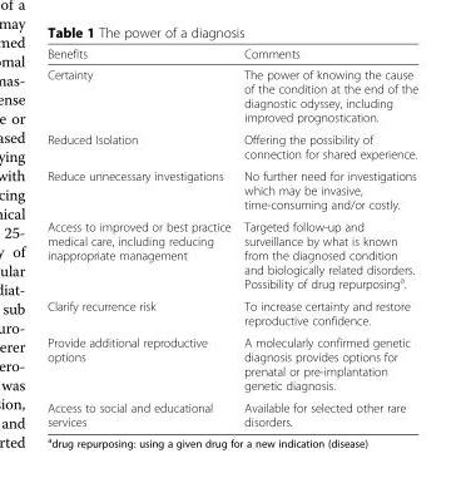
<table><thead><tr><td>Benefits</td><td>Comments</td></tr></thead><tbody><tr><td>Certainty</td><td>The power of knowing the cause of the condition at the end of the diagnostic odyssey, including improved prognostication.</td></tr><tr><td>Reduced Isolation</td><td>Offering the possibility of connection for shared experience.</td></tr><tr><td>Reduce unnecessary investigations</td><td>No further need for investigations which may be invasive, time-consuming and/or costly.</td></tr><tr><td>Access to improved or best practice medical care, including reducing inappropriate management</td><td>Targeted follow-up and surveillance by what is known from the diagnosed condition and biologically related disorders. Possibility of drug repurposing<sup>a</sup>.</td></tr><tr><td>Clarify recurrence risk</td><td>To increase certainty and restore reproductive confidence.</td></tr><tr><td>Provide additional reproductive options</td><td>A molecularly confirmed genetic diagnosis provides options for prenatal or pre-implantation genetic diagnosis.</td></tr><tr><td>Access to social and educational services</td><td>Available for selected other rare disorders.</td></tr></tbody></table>